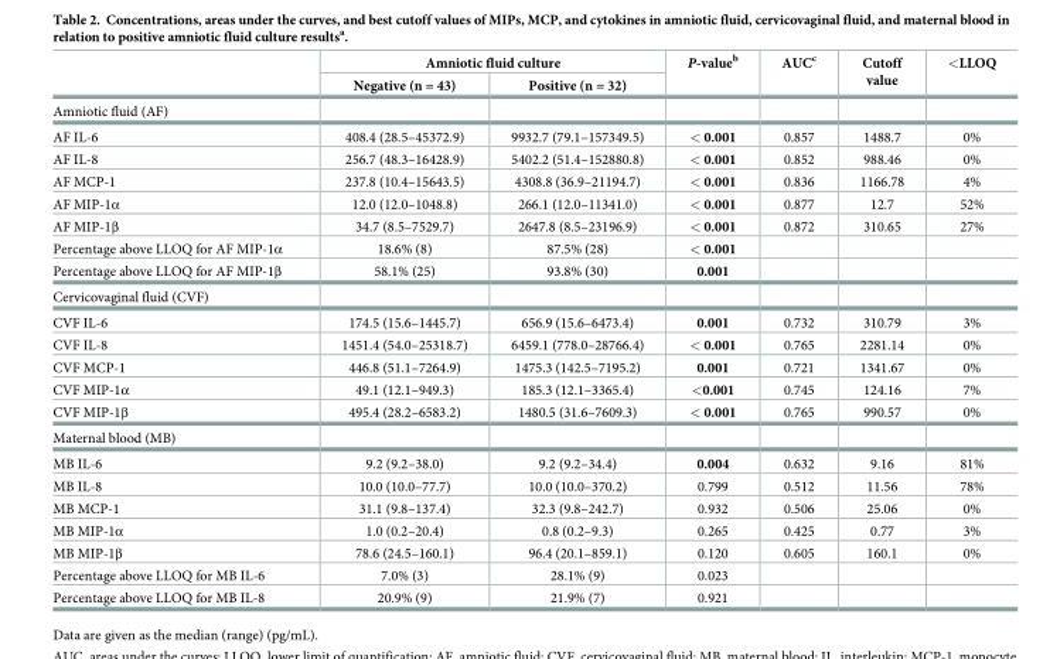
<table><thead><tr><td rowspan="2"></td><td colspan="2">Amniotic fluid culture</td><td rowspan="2">P-value<sup>b</sup></td><td rowspan="2">AUC<sup>c</sup></td><td rowspan="2">Cutoff value</td><td rowspan="2">&lt;LLOQ</td></tr><tr><td>Negative (n = 43)</td><td>Positive (n = 32)</td></tr></thead><tbody><tr><td colspan="7">Amniotic fluid (AF)</td></tr><tr><td>AF IL-6</td><td>408.4 (28.5–45372.9)</td><td>9932.7 (79.1–157349.5)</td><td>&lt; 0.001</td><td>0.857</td><td>1488.7</td><td>0%</td></tr><tr><td>AF IL-8</td><td>256.7 (48.3–16428.9)</td><td>5402.2 (51.4–152880.8)</td><td>&lt; 0.001</td><td>0.852</td><td>988.46</td><td>0%</td></tr><tr><td>AF MCP-1</td><td>237.8 (10.4–15643.5)</td><td>4308.8 (36.9–21194.7)</td><td>&lt; 0.001</td><td>0.836</td><td>1166.78</td><td>4%</td></tr><tr><td>AF MIP-1α</td><td>12.0 (12.0–1048.8)</td><td>266.1 (12.0–11341.0)</td><td>&lt; 0.001</td><td>0.877</td><td>12.7</td><td>52%</td></tr><tr><td>AF MIP-1β</td><td>34.7 (8.5–7529.7)</td><td>2647.8 (8.5–23196.9)</td><td>&lt; 0.001</td><td>0.872</td><td>310.65</td><td>27%</td></tr><tr><td>Percentage above LLOQ for AF MIP-1α</td><td>18.6% (8)</td><td>87.5% (28)</td><td>&lt; 0.001</td><td></td><td></td><td></td></tr><tr><td>Percentage above LLOQ for AF MIP-1β</td><td>58.1% (25)</td><td>93.8% (30)</td><td>0.001</td><td></td><td></td><td></td></tr><tr><td colspan="7">Cervicovaginal fluid (CVF)</td></tr><tr><td>CVF IL-6</td><td>174.5 (15.6–1445.7)</td><td>656.9 (15.6–6473.4)</td><td>0.001</td><td>0.732</td><td>310.79</td><td>3%</td></tr><tr><td>CVF IL-8</td><td>1451.4 (54.0–25318.7)</td><td>6459.1 (778.0–28766.4)</td><td>&lt; 0.001</td><td>0.765</td><td>2281.14</td><td>0%</td></tr><tr><td>CVF MCP-1</td><td>446.8 (51.1–7264.9)</td><td>1475.3 (142.5–7195.2)</td><td>0.001</td><td>0.721</td><td>1341.67</td><td>0%</td></tr><tr><td>CVF MIP-1α</td><td>49.1 (12.1–949.3)</td><td>185.3 (12.1–3365.4)</td><td>&lt;0.001</td><td>0.745</td><td>124.16</td><td>7%</td></tr><tr><td>CVF MIP-1β</td><td>495.4 (28.2–6583.2)</td><td>1480.5 (31.6–7609.3)</td><td>&lt; 0.001</td><td>0.765</td><td>990.57</td><td>0%</td></tr><tr><td colspan="7">Maternal blood (MB)</td></tr><tr><td>MB IL-6</td><td>9.2 (9.2–38.0)</td><td>9.2 (9.2–34.4)</td><td>0.004</td><td>0.632</td><td>9.16</td><td>81%</td></tr><tr><td>MB IL-8</td><td>10.0 (10.0–77.7)</td><td>10.0 (10.0–370.2)</td><td>0.799</td><td>0.512</td><td>11.56</td><td>78%</td></tr><tr><td>MB MCP-1</td><td>31.1 (9.8–137.4)</td><td>32.3 (9.8–242.7)</td><td>0.932</td><td>0.506</td><td>25.06</td><td>0%</td></tr><tr><td>MB MIP-1α</td><td>1.0 (0.2–20.4)</td><td>0.8 (0.2–9.3)</td><td>0.265</td><td>0.425</td><td>0.77</td><td>3%</td></tr><tr><td>MB MIP-1β</td><td>78.6 (24.5–160.1)</td><td>96.4 (20.1–859.1)</td><td>0.120</td><td>0.605</td><td>160.1</td><td>0%</td></tr><tr><td>Percentage above LLOQ for MB IL-6</td><td>7.0% (3)</td><td>28.1% (9)</td><td>0.023</td><td></td><td></td><td></td></tr><tr><td>Percentage above LLOQ for MB IL-8</td><td>20.9% (9)</td><td>21.9% (7)</td><td>0.921</td><td></td><td></td><td></td></tr></tbody></table>